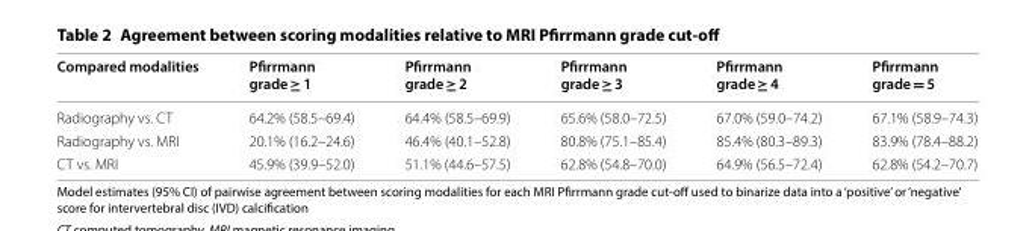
<table><thead><tr><td>Compared modalities</td><td>Pfirrmann grade ≥ 1</td><td>Pfirrmann grade ≥ 2</td><td>Pfirrmann grade ≥ 3</td><td>Pfirrmann grade ≥ 4</td><td>Pfirrmann grade = 5</td></tr></thead><tbody><tr><td>Radiography vs. CT</td><td>64.2% (58.5–69.4)</td><td>64.4% (58.5–69.9)</td><td>65.6% (58.0–72.5)</td><td>67.0% (59.0–74.2)</td><td>67.1% (58.9–74.3)</td></tr><tr><td>Radiography vs. MRI</td><td>20.1% (16.2–24.6)</td><td>46.4% (40.1–52.8)</td><td>80.8% (75.1–85.4)</td><td>85.4% (80.3–89.3)</td><td>83.9% (78.4–88.2)</td></tr><tr><td>CT vs. MRI</td><td>45.9% (39.9–52.0)</td><td>51.1% (44.6–57.5)</td><td>62.8% (54.8–70.0)</td><td>64.9% (56.5–72.4)</td><td>62.8% (54.2–70.7)</td></tr></tbody></table>